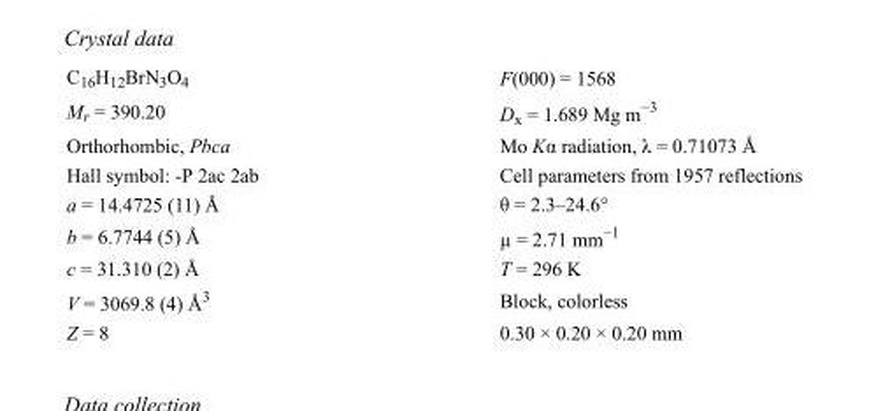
<table><tbody><tr><td>C<sub>16</sub>H<sub>12</sub>BrN<sub>3</sub>O<sub>4</sub></td><td>F(000) = 1568</td></tr><tr><td>M<sub>r</sub> = 390.20</td><td>D<sub>x</sub> = 1.689 Mg m<sup>−3</sup></td></tr><tr><td>Orthorhombic, Pbca</td><td>Mo Kα radiation, λ = 0.71073 Å</td></tr><tr><td>Hall symbol: -P 2ac 2ab</td><td>Cell parameters from 1957 reflections</td></tr><tr><td>a = 14.4725 (11) Å</td><td>θ = 2.3–24.6°</td></tr><tr><td>b = 6.7744 (5) Å</td><td>µ = 2.71 mm<sup>−1</sup></td></tr><tr><td>c = 31.310 (2) Å</td><td>T = 296 K</td></tr><tr><td>V = 3069.8 (4) Å<sup>3</sup></td><td>Block, colorless</td></tr><tr><td>Z = 8</td><td>0.30 × 0.20 × 0.20 mm</td></tr></tbody></table>